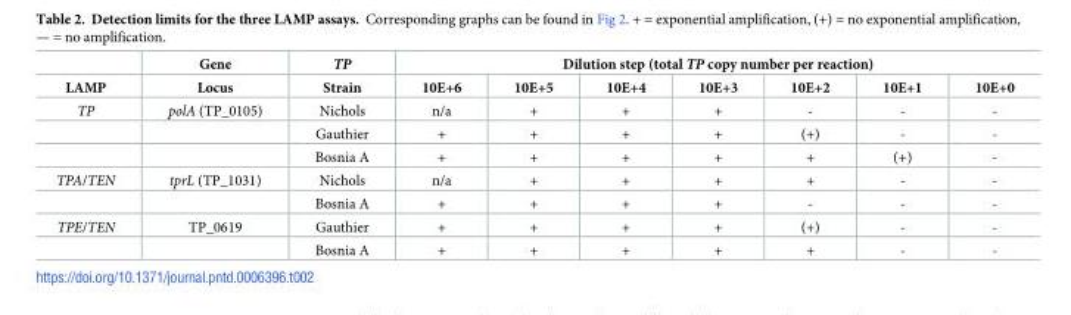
<table><thead><tr><td rowspan="2">LAMP</td><td rowspan="2">Gene Locus</td><td rowspan="2">TP Strain</td><td colspan="7">Dilution step (total TP copy number per reaction)</td></tr><tr><td>10E+6</td><td>10E+5</td><td>10E+4</td><td>10E+3</td><td>10E+2</td><td>10E+1</td><td>10E+0</td></tr></thead><tbody><tr><td rowspan="3">TP</td><td>polA (TP_0105)</td><td>Nichols</td><td>n/a</td><td>+</td><td>+</td><td>+</td><td>-</td><td>-</td><td>-</td></tr><tr><td></td><td>Gauthier</td><td>+</td><td>+</td><td>+</td><td>+</td><td>(+)</td><td>-</td><td>-</td></tr><tr><td></td><td>Bosnia A</td><td>+</td><td>+</td><td>+</td><td>+</td><td>+</td><td>(+)</td><td>-</td></tr><tr><td rowspan="2">TPA/TEN</td><td>tprL (TP_1031)</td><td>Nichols</td><td>n/a</td><td>+</td><td>+</td><td>+</td><td>+</td><td>-</td><td>-</td></tr><tr><td></td><td>Bosnia A</td><td>+</td><td>+</td><td>+</td><td>+</td><td>-</td><td>-</td><td>-</td></tr><tr><td rowspan="2">TPE/TEN</td><td>TP_0619</td><td>Gauthier</td><td>+</td><td>+</td><td>+</td><td>+</td><td>(+)</td><td>-</td><td>-</td></tr><tr><td></td><td>Bosnia A</td><td>+</td><td>+</td><td>+</td><td>+</td><td>+</td><td>-</td><td>-</td></tr></tbody></table>